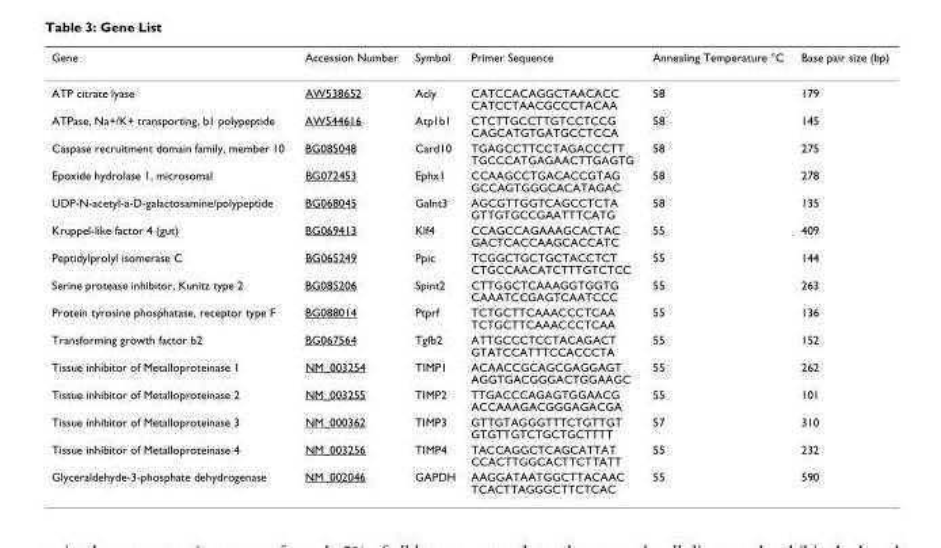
<table><thead><tr><td>Gene</td><td>Accession Number</td><td>Symbol</td><td>Primer Sequence</td><td>Annealing Temperature °C</td><td>Base pair size (bp)</td></tr></thead><tbody><tr><td>ATP citrate lyase</td><td>AW538652</td><td>Acly</td><td>CATCCACAGGCTAACACC CATCCTAACGCCCTACAA</td><td>58</td><td>179</td></tr><tr><td>ATPase, Na+/K+ transporting, b1 polypeptide</td><td>AW544616</td><td>Atp1b1</td><td>CTCTTGCCTTGTCCTCCG CAGCATGTGATGCCTCCA</td><td>58</td><td>145</td></tr><tr><td>Caspase recruitment domain family, member 10</td><td>BG085048</td><td>Card10</td><td>TGAGCCTTCCTAGACCCTT TGCCCATGAGAACTTGAGTG</td><td>58</td><td>275</td></tr><tr><td>Epoxide hydrolase 1, microsomal</td><td>BG072453</td><td>Ephx1</td><td>CCAAGCCTGACACCGTAG GCCAGTGGGCACATAGAC</td><td>58</td><td>278</td></tr><tr><td>UDP-N-acetyl-a-D-galactosamine/polypeptide</td><td>BG068045</td><td>Galnt3</td><td>AGCGTTGGTCAGCCTCTA GTTGTGCCGAATTTCATG</td><td>58</td><td>135</td></tr><tr><td>Kruppel-like factor 4 (gut)</td><td>BG069413</td><td>Klf4</td><td>CCAGCCAGAAAGCACTAC GACTCACCAAGCACCATC</td><td>55</td><td>409</td></tr><tr><td>Peptidylprolyl isomerase C</td><td>BG065249</td><td>Ppic</td><td>TCGGCTGCTGCTACCTCT CTGCCAACATCTTTGTCTCC</td><td>55</td><td>144</td></tr><tr><td>Serine protease inhibitor, Kunitz type 2</td><td>BG085206</td><td>Spint2</td><td>CTTGGCTCAAAGGTGGTG CAAATCCGAGTCAATCCC</td><td>55</td><td>263</td></tr><tr><td>Protein tyrosine phosphatase, receptor type F</td><td>BG088014</td><td>Ptprf</td><td>TCTGCTTCAAACCCTCAA TCTGCTTCAAACCCTCAA</td><td>55</td><td>136</td></tr><tr><td>Transforming growth factor b2</td><td>BG067564</td><td>Tgfb2</td><td>ATTGCCCTCCTACAGACT GTATCCATTTCCACCCTA</td><td>55</td><td>152</td></tr><tr><td>Tissue inhibitor of Metalloproteinase 1</td><td>NM_003254</td><td>TIMP1</td><td>ACAACCGCAGCGAGGAGT AGGTGACGGGACTGGAAGC</td><td>55</td><td>262</td></tr><tr><td>Tissue inhibitor of Metalloproteinase 2</td><td>NM_003255</td><td>TIMP2</td><td>TTGACCCAGAGTGGAACG ACCAAAGACGGGAGACGA</td><td>55</td><td>101</td></tr><tr><td>Tissue inhibitor of Metalloproteinase 3</td><td>NM_000362</td><td>TIMP3</td><td>GTTGTAGGGTTTCTGTTGT GTGTTGTCTGCTGCTTTT</td><td>57</td><td>310</td></tr><tr><td>Tissue inhibitor of Metalloproteinase 4</td><td>NM_003256</td><td>TIMP4</td><td>TACCAGGCTCAGCATTAT CCACTTGGCACTTCTTATT</td><td>55</td><td>232</td></tr><tr><td>Glyceraldehyde-3-phosphate dehydrogenase</td><td>NM_002046</td><td>GAPDH</td><td>AAGGATAATGGCTTACAAC TCACTTAGGGCTTCTCAC</td><td>55</td><td>590</td></tr></tbody></table>